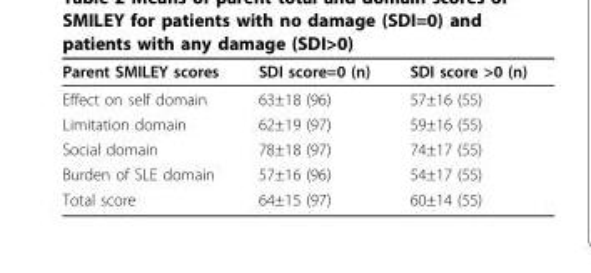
<table><thead><tr><td>Parent SMILEY scores</td><td>SDI score=0 (n)</td><td>SDI score &gt;0 (n)</td></tr></thead><tbody><tr><td>Effect on self domain</td><td>63±18 (96)</td><td>57±16 (55)</td></tr><tr><td>Limitation domain</td><td>62±19 (97)</td><td>59±16 (55)</td></tr><tr><td>Social domain</td><td>78±18 (97)</td><td>74±17 (55)</td></tr><tr><td>Burden of SLE domain</td><td>57±16 (96)</td><td>54±17 (55)</td></tr><tr><td>Total score</td><td>64±15 (97)</td><td>60±14 (55)</td></tr></tbody></table>